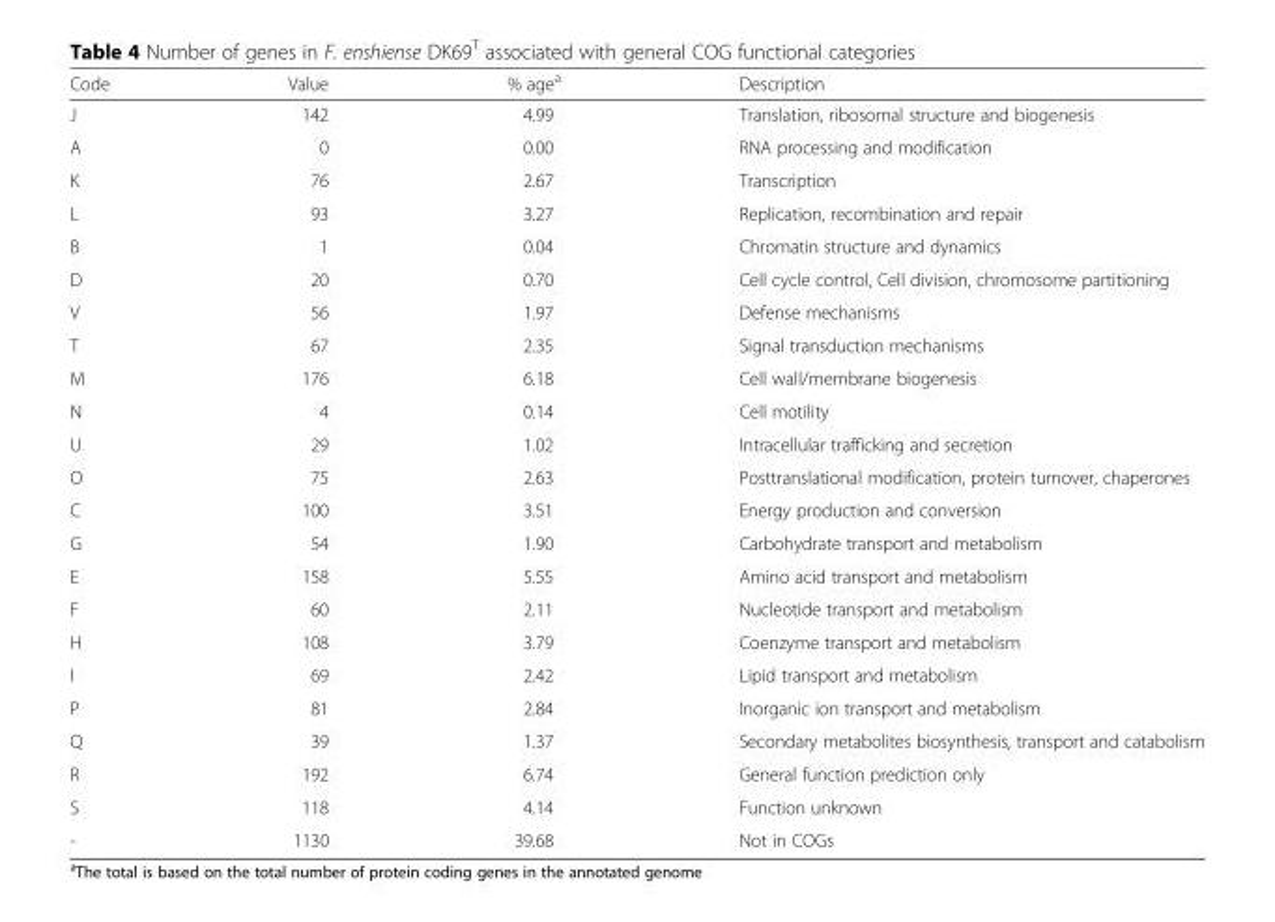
<table><thead><tr><td>Code</td><td>Value</td><td>% age<sup>a</sup></td><td>Description</td></tr></thead><tbody><tr><td>J</td><td>142</td><td>4.99</td><td>Translation, ribosomal structure and biogenesis</td></tr><tr><td>A</td><td>0</td><td>0.00</td><td>RNA processing and modification</td></tr><tr><td>K</td><td>76</td><td>2.67</td><td>Transcription</td></tr><tr><td>L</td><td>93</td><td>3.27</td><td>Replication, recombination and repair</td></tr><tr><td>B</td><td>1</td><td>0.04</td><td>Chromatin structure and dynamics</td></tr><tr><td>D</td><td>20</td><td>0.70</td><td>Cell cycle control, Cell division, chromosome partitioning</td></tr><tr><td>V</td><td>56</td><td>1.97</td><td>Defense mechanisms</td></tr><tr><td>T</td><td>67</td><td>2.35</td><td>Signal transduction mechanisms</td></tr><tr><td>M</td><td>176</td><td>6.18</td><td>Cell wall/membrane biogenesis</td></tr><tr><td>N</td><td>4</td><td>0.14</td><td>Cell motility</td></tr><tr><td>U</td><td>29</td><td>1.02</td><td>Intracellular trafficking and secretion</td></tr><tr><td>O</td><td>75</td><td>2.63</td><td>Posttranslational modification, protein turnover, chaperones</td></tr><tr><td>C</td><td>100</td><td>3.51</td><td>Energy production and conversion</td></tr><tr><td>G</td><td>54</td><td>1.90</td><td>Carbohydrate transport and metabolism</td></tr><tr><td>E</td><td>158</td><td>5.55</td><td>Amino acid transport and metabolism</td></tr><tr><td>F</td><td>60</td><td>2.11</td><td>Nucleotide transport and metabolism</td></tr><tr><td>H</td><td>108</td><td>3.79</td><td>Coenzyme transport and metabolism</td></tr><tr><td>I</td><td>69</td><td>2.42</td><td>Lipid transport and metabolism</td></tr><tr><td>P</td><td>81</td><td>2.84</td><td>Inorganic ion transport and metabolism</td></tr><tr><td>Q</td><td>39</td><td>1.37</td><td>Secondary metabolites biosynthesis, transport and catabolism</td></tr><tr><td>R</td><td>192</td><td>6.74</td><td>General function prediction only</td></tr><tr><td>S</td><td>118</td><td>4.14</td><td>Function unknown</td></tr><tr><td>-</td><td>1130</td><td>39.68</td><td>Not in COGs</td></tr></tbody></table>